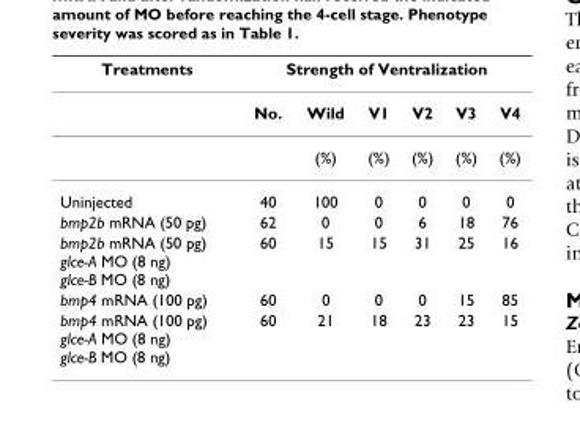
<table><thead><tr><td rowspan="2">Treatments</td><td colspan="6">Strength of Ventralization</td></tr><tr><td>No.</td><td>Wild</td><td>V1</td><td>V2</td><td>V3</td><td>V4</td></tr></thead><tbody><tr><td></td><td></td><td>(%)</td><td>(%)</td><td>(%)</td><td>(%)</td><td>(%)</td></tr><tr><td>Uninjected</td><td>40</td><td>100</td><td>0</td><td>0</td><td>0</td><td>0</td></tr><tr><td>bmp2b mRNA (50 pg)</td><td>62</td><td>0</td><td>0</td><td>6</td><td>18</td><td>76</td></tr><tr><td>bmp2b mRNA (50 pg) glce-A MO (8 ng) glce-B MO (8 ng)</td><td>60</td><td>15</td><td>15</td><td>31</td><td>25</td><td>16</td></tr><tr><td>bmp4 mRNA (100 pg)</td><td>60</td><td>0</td><td>0</td><td>0</td><td>15</td><td>85</td></tr><tr><td>bmp4 mRNA (100 pg) glce-A MO (8 ng) glce-B MO (8 ng)</td><td>60</td><td>21</td><td>18</td><td>23</td><td>23</td><td>15</td></tr></tbody></table>